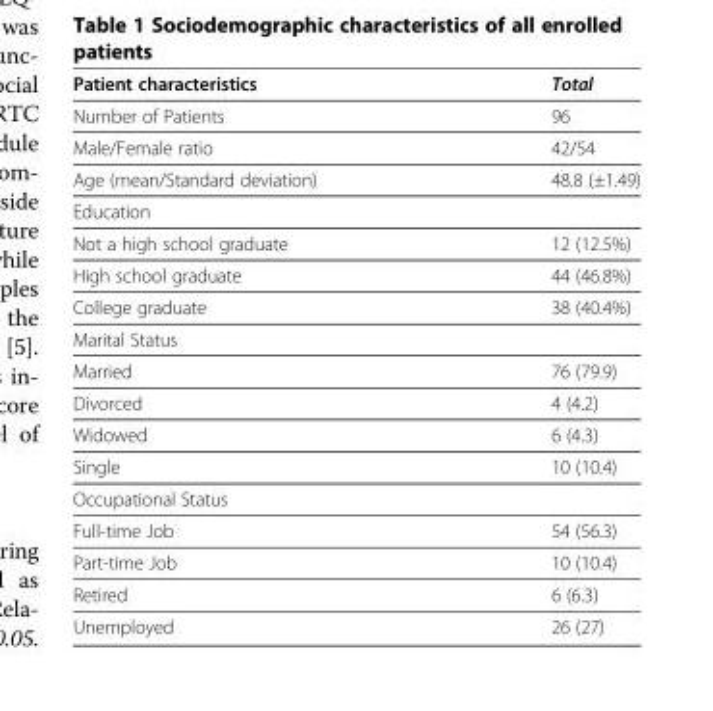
<table><thead><tr><td>Patient characteristics</td><td>Total</td></tr></thead><tbody><tr><td>Number of Patients</td><td>96</td></tr><tr><td>Male/Female ratio</td><td>42/54</td></tr><tr><td>Age (mean/Standard deviation)</td><td>48.8 (±1.49)</td></tr><tr><td colspan="2">Education</td></tr><tr><td>Not a high school graduate</td><td>12 (12.5%)</td></tr><tr><td>High school graduate</td><td>44 (46.8%)</td></tr><tr><td>College graduate</td><td>38 (40.4%)</td></tr><tr><td colspan="2">Marital Status</td></tr><tr><td>Married</td><td>76 (79.9)</td></tr><tr><td>Divorced</td><td>4 (4.2)</td></tr><tr><td>Widowed</td><td>6 (4.3)</td></tr><tr><td>Single</td><td>10 (10.4)</td></tr><tr><td colspan="2">Occupational Status</td></tr><tr><td>Full-time Job</td><td>54 (56.3)</td></tr><tr><td>Part-time Job</td><td>10 (10.4)</td></tr><tr><td>Retired</td><td>6 (6.3)</td></tr><tr><td>Unemployed</td><td>26 (27)</td></tr></tbody></table>